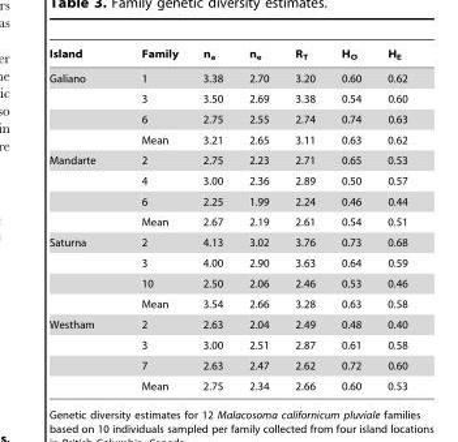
<table><thead><tr><td>Island</td><td>Family</td><td>n<sub>a</sub></td><td>n<sub>e</sub></td><td>R<sub>T</sub></td><td>H<sub>O</sub></td><td>H<sub>E</sub></td></tr></thead><tbody><tr><td rowspan="4">Galiano</td><td>1</td><td>3.38</td><td>2.70</td><td>3.20</td><td>0.60</td><td>0.62</td></tr><tr><td>3</td><td>3.50</td><td>2.69</td><td>3.38</td><td>0.54</td><td>0.60</td></tr><tr><td>6</td><td>2.75</td><td>2.55</td><td>2.74</td><td>0.74</td><td>0.63</td></tr><tr><td>Mean</td><td>3.21</td><td>2.65</td><td>3.11</td><td>0.63</td><td>0.62</td></tr><tr><td rowspan="4">Mandarte</td><td>2</td><td>2.75</td><td>2.23</td><td>2.71</td><td>0.65</td><td>0.53</td></tr><tr><td>4</td><td>3.00</td><td>2.36</td><td>2.89</td><td>0.50</td><td>0.57</td></tr><tr><td>6</td><td>2.25</td><td>1.99</td><td>2.24</td><td>0.46</td><td>0.44</td></tr><tr><td>Mean</td><td>2.67</td><td>2.19</td><td>2.61</td><td>0.54</td><td>0.51</td></tr><tr><td rowspan="4">Saturna</td><td>2</td><td>4.13</td><td>3.02</td><td>3.76</td><td>0.73</td><td>0.68</td></tr><tr><td>3</td><td>4.00</td><td>2.90</td><td>3.63</td><td>0.64</td><td>0.59</td></tr><tr><td>10</td><td>2.50</td><td>2.06</td><td>2.46</td><td>0.53</td><td>0.46</td></tr><tr><td>Mean</td><td>3.54</td><td>2.66</td><td>3.28</td><td>0.63</td><td>0.58</td></tr><tr><td rowspan="4">Westham</td><td>2</td><td>2.63</td><td>2.04</td><td>2.49</td><td>0.48</td><td>0.40</td></tr><tr><td>3</td><td>3.00</td><td>2.51</td><td>2.87</td><td>0.61</td><td>0.58</td></tr><tr><td>7</td><td>2.63</td><td>2.47</td><td>2.62</td><td>0.72</td><td>0.60</td></tr><tr><td>Mean</td><td>2.75</td><td>2.34</td><td>2.66</td><td>0.60</td><td>0.53</td></tr></tbody></table>